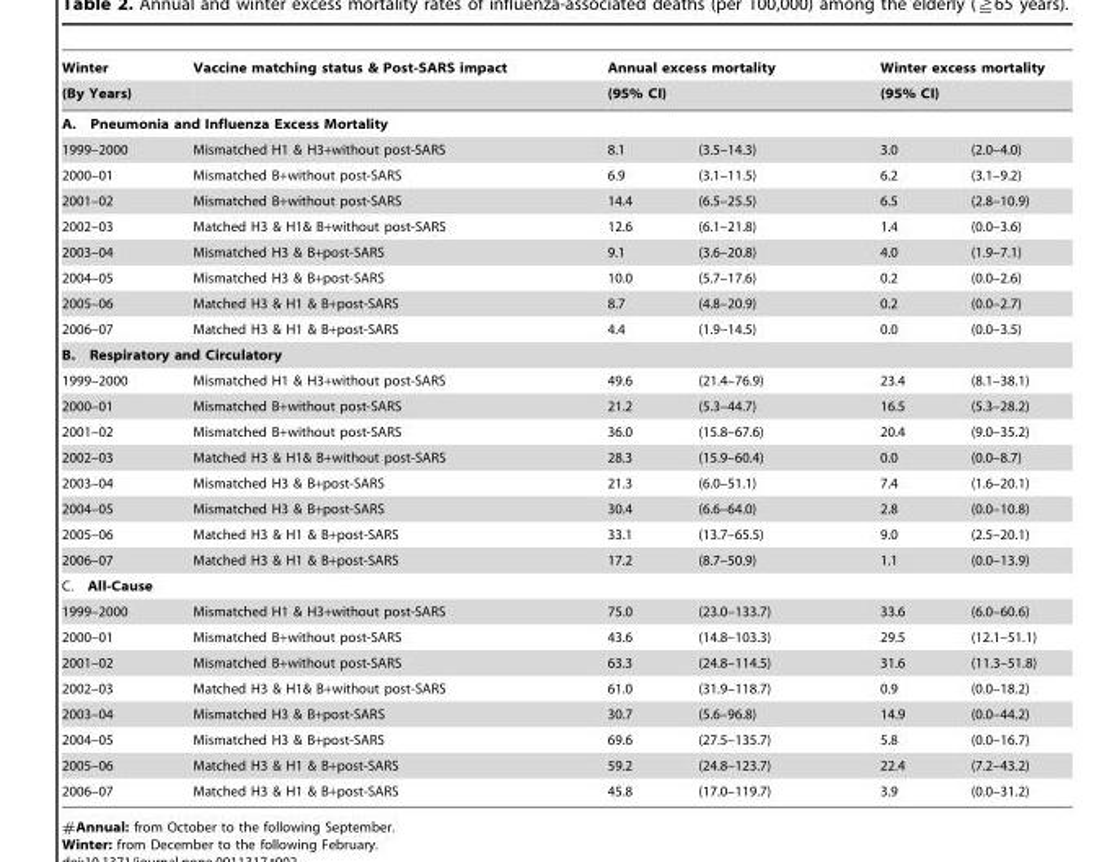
<table><thead><tr><td rowspan="2">Winter (By Years)</td><td rowspan="2">Vaccine matching status &amp; Post-SARS impact</td><td rowspan="2" colspan="2">Annual excess mortality (95% CI)</td><td rowspan="2" colspan="2">Winter excess mortality (95% CI)</td></tr><tr></tr><tr><td colspan="6">A. Pneumonia and Influenza Excess Mortality</td></tr><tr><td>1999–2000</td><td>Mismatched H1 &amp; H3+without post-SARS</td><td>8.1</td><td>(3.5–14.3)</td><td>3.0</td><td>(2.0–4.0)</td></tr></thead><tbody><tr><td>2000–01</td><td>Mismatched B+without post-SARS</td><td>6.9</td><td>(3.1–11.5)</td><td>6.2</td><td>(3.1–9.2)</td></tr><tr><td>2001–02</td><td>Mismatched B+without post-SARS</td><td>14.4</td><td>(6.5–25.5)</td><td>6.5</td><td>(2.8–10.9)</td></tr><tr><td>2002–03</td><td>Matched H3 &amp; H1&amp; B+without post-SARS</td><td>12.6</td><td>(6.1–21.8)</td><td>1.4</td><td>(0.0–3.6)</td></tr><tr><td>2003–04</td><td>Mismatched H3 &amp; B+post-SARS</td><td>9.1</td><td>(3.6–20.8)</td><td>4.0</td><td>(1.9–7.1)</td></tr><tr><td>2004–05</td><td>Mismatched H3 &amp; B+post-SARS</td><td>10.0</td><td>(5.7–17.6)</td><td>0.2</td><td>(0.0–2.6)</td></tr><tr><td>2005–06</td><td>Matched H3 &amp; H1 &amp; B+post-SARS</td><td>8.7</td><td>(4.8–20.9)</td><td>0.2</td><td>(0.0–2.7)</td></tr><tr><td>2006–07</td><td>Matched H3 &amp; H1 &amp; B+post-SARS</td><td>4.4</td><td>(1.9–14.5)</td><td>0.0</td><td>(0.0–3.5)</td></tr><tr><td colspan="6">B. Respiratory and Circulatory</td></tr><tr><td>1999–2000</td><td>Mismatched H1 &amp; H3+without post-SARS</td><td>49.6</td><td>(21.4–76.9)</td><td>23.4</td><td>(8.1–38.1)</td></tr><tr><td>2000–01</td><td>Mismatched B+without post-SARS</td><td>21.2</td><td>(5.3–44.7)</td><td>16.5</td><td>(5.3–28.2)</td></tr><tr><td>2001–02</td><td>Mismatched B+without post-SARS</td><td>36.0</td><td>(15.8–67.6)</td><td>20.4</td><td>(9.0–35.2)</td></tr><tr><td>2002–03</td><td>Matched H3 &amp; H1&amp; B+without post-SARS</td><td>28.3</td><td>(15.9–60.4)</td><td>0.0</td><td>(0.0–8.7)</td></tr><tr><td>2003–04</td><td>Mismatched H3 &amp; B+post-SARS</td><td>21.3</td><td>(6.0–51.1)</td><td>7.4</td><td>(1.6–20.1)</td></tr><tr><td>2004–05</td><td>Mismatched H3 &amp; B+post-SARS</td><td>30.4</td><td>(6.6–64.0)</td><td>2.8</td><td>(0.0–10.8)</td></tr><tr><td>2005–06</td><td>Matched H3 &amp; H1 &amp; B+post-SARS</td><td>33.1</td><td>(13.7–65.5)</td><td>9.0</td><td>(2.5–20.1)</td></tr><tr><td>2006–07</td><td>Matched H3 &amp; H1 &amp; B+post-SARS</td><td>17.2</td><td>(8.7–50.9)</td><td>1.1</td><td>(0.0–13.9)</td></tr><tr><td colspan="6">C. All-Cause</td></tr><tr><td>1999–2000</td><td>Mismatched H1 &amp; H3+without post-SARS</td><td>75.0</td><td>(23.0–133.7)</td><td>33.6</td><td>(6.0–60.6)</td></tr><tr><td>2000–01</td><td>Mismatched B+without post-SARS</td><td>43.6</td><td>(14.8–103.3)</td><td>29.5</td><td>(12.1–51.1)</td></tr><tr><td>2001–02</td><td>Mismatched B+without post-SARS</td><td>63.3</td><td>(24.8–114.5)</td><td>31.6</td><td>(11.3–51.8)</td></tr><tr><td>2002–03</td><td>Matched H3 &amp; H1&amp; B+without post-SARS</td><td>61.0</td><td>(31.9–118.7)</td><td>0.9</td><td>(0.0–18.2)</td></tr><tr><td>2003–04</td><td>Mismatched H3 &amp; B+post-SARS</td><td>30.7</td><td>(5.6–96.8)</td><td>14.9</td><td>(0.0–44.2)</td></tr><tr><td>2004–05</td><td>Mismatched H3 &amp; B+post-SARS</td><td>69.6</td><td>(27.5–135.7)</td><td>5.8</td><td>(0.0–16.7)</td></tr><tr><td>2005–06</td><td>Matched H3 &amp; H1 &amp; B+post-SARS</td><td>59.2</td><td>(24.8–123.7)</td><td>22.4</td><td>(7.2–43.2)</td></tr><tr><td>2006–07</td><td>Matched H3 &amp; H1 &amp; B+post-SARS</td><td>45.8</td><td>(17.0–119.7)</td><td>3.9</td><td>(0.0–31.2)</td></tr></tbody></table>